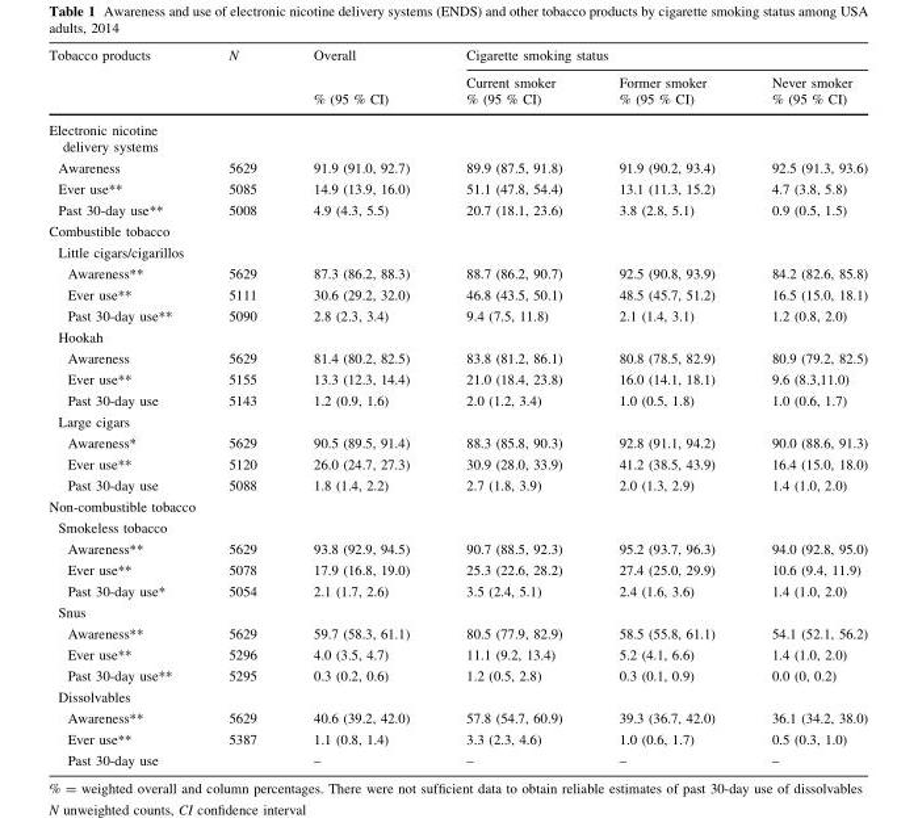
<table><thead><tr><td rowspan="3">Tobacco products</td><td rowspan="3">N</td><td rowspan="3">Overall % (95 % CI)</td><td colspan="3">Cigarette smoking status</td></tr><tr><td rowspan="2">Current smoker % (95 % CI)</td><td rowspan="2">Former smoker % (95 % CI)</td><td rowspan="2">Never smoker % (95 % CI)</td></tr><tr></tr></thead><tbody><tr><td colspan="6">Electronic nicotine delivery systems</td></tr><tr><td>Awareness</td><td>5629</td><td>91.9 (91.0, 92.7)</td><td>89.9 (87.5, 91.8)</td><td>91.9 (90.2, 93.4)</td><td>92.5 (91.3, 93.6)</td></tr><tr><td>Ever use**</td><td>5085</td><td>14.9 (13.9, 16.0)</td><td>51.1 (47.8, 54.4)</td><td>13.1 (11.3, 15.2)</td><td>4.7 (3.8, 5.8)</td></tr><tr><td>Past 30-day use**</td><td>5008</td><td>4.9 (4.3, 5.5)</td><td>20.7 (18.1, 23.6)</td><td>3.8 (2.8, 5.1)</td><td>0.9 (0.5, 1.5)</td></tr><tr><td colspan="6">Combustible tobacco</td></tr><tr><td colspan="6">Little cigars/cigarillos</td></tr><tr><td>Awareness**</td><td>5629</td><td>87.3 (86.2, 88.3)</td><td>88.7 (86.2, 90.7)</td><td>92.5 (90.8, 93.9)</td><td>84.2 (82.6, 85.8)</td></tr><tr><td>Ever use**</td><td>5111</td><td>30.6 (29.2, 32.0)</td><td>46.8 (43.5, 50.1)</td><td>48.5 (45.7, 51.2)</td><td>16.5 (15.0, 18.1)</td></tr><tr><td>Past 30-day use**</td><td>5090</td><td>2.8 (2.3, 3.4)</td><td>9.4 (7.5, 11.8)</td><td>2.1 (1.4, 3.1)</td><td>1.2 (0.8, 2.0)</td></tr><tr><td colspan="6">Hookah</td></tr><tr><td>Awareness</td><td>5629</td><td>81.4 (80.2, 82.5)</td><td>83.8 (81.2, 86.1)</td><td>80.8 (78.5, 82.9)</td><td>80.9 (79.2, 82.5)</td></tr><tr><td>Ever use**</td><td>5155</td><td>13.3 (12.3, 14.4)</td><td>21.0 (18.4, 23.8)</td><td>16.0 (14.1, 18.1)</td><td>9.6 (8.3,11.0)</td></tr><tr><td>Past 30-day use</td><td>5143</td><td>1.2 (0.9, 1.6)</td><td>2.0 (1.2, 3.4)</td><td>1.0 (0.5, 1.8)</td><td>1.0 (0.6, 1.7)</td></tr><tr><td colspan="6">Large cigars</td></tr><tr><td>Awareness*</td><td>5629</td><td>90.5 (89.5, 91.4)</td><td>88.3 (85.8, 90.3)</td><td>92.8 (91.1, 94.2)</td><td>90.0 (88.6, 91.3)</td></tr><tr><td>Ever use**</td><td>5120</td><td>26.0 (24.7, 27.3)</td><td>30.9 (28.0, 33.9)</td><td>41.2 (38.5, 43.9)</td><td>16.4 (15.0, 18.0)</td></tr><tr><td>Past 30-day use</td><td>5088</td><td>1.8 (1.4, 2.2)</td><td>2.7 (1.8, 3.9)</td><td>2.0 (1.3, 2.9)</td><td>1.4 (1.0, 2.0)</td></tr><tr><td colspan="6">Non-combustible tobacco</td></tr><tr><td colspan="6">Smokeless tobacco</td></tr><tr><td>Awareness**</td><td>5629</td><td>93.8 (92.9, 94.5)</td><td>90.7 (88.5, 92.3)</td><td>95.2 (93.7, 96.3)</td><td>94.0 (92.8, 95.0)</td></tr><tr><td>Ever use**</td><td>5078</td><td>17.9 (16.8, 19.0)</td><td>25.3 (22.6, 28.2)</td><td>27.4 (25.0, 29.9)</td><td>10.6 (9.4, 11.9)</td></tr><tr><td>Past 30-day use*</td><td>5054</td><td>2.1 (1.7, 2.6)</td><td>3.5 (2.4, 5.1)</td><td>2.4 (1.6, 3.6)</td><td>1.4 (1.0, 2.0)</td></tr><tr><td colspan="6">Snus</td></tr><tr><td>Awareness**</td><td>5629</td><td>59.7 (58.3, 61.1)</td><td>80.5 (77.9, 82.9)</td><td>58.5 (55.8, 61.1)</td><td>54.1 (52.1, 56.2)</td></tr><tr><td>Ever use**</td><td>5296</td><td>4.0 (3.5, 4.7)</td><td>11.1 (9.2, 13.4)</td><td>5.2 (4.1, 6.6)</td><td>1.4 (1.0, 2.0)</td></tr><tr><td>Past 30-day use**</td><td>5295</td><td>0.3 (0.2, 0.6)</td><td>1.2 (0.5, 2.8)</td><td>0.3 (0.1, 0.9)</td><td>0.0 (0, 0.2)</td></tr><tr><td colspan="6">Dissolvables</td></tr><tr><td>Awareness**</td><td>5629</td><td>40.6 (39.2, 42.0)</td><td>57.8 (54.7, 60.9)</td><td>39.3 (36.7, 42.0)</td><td>36.1 (34.2, 38.0)</td></tr><tr><td>Ever use**</td><td>5387</td><td>1.1 (0.8, 1.4)</td><td>3.3 (2.3, 4.6)</td><td>1.0 (0.6, 1.7)</td><td>0.5 (0.3, 1.0)</td></tr><tr><td>Past 30-day use</td><td></td><td>–</td><td>–</td><td>–</td><td>–</td></tr></tbody></table>